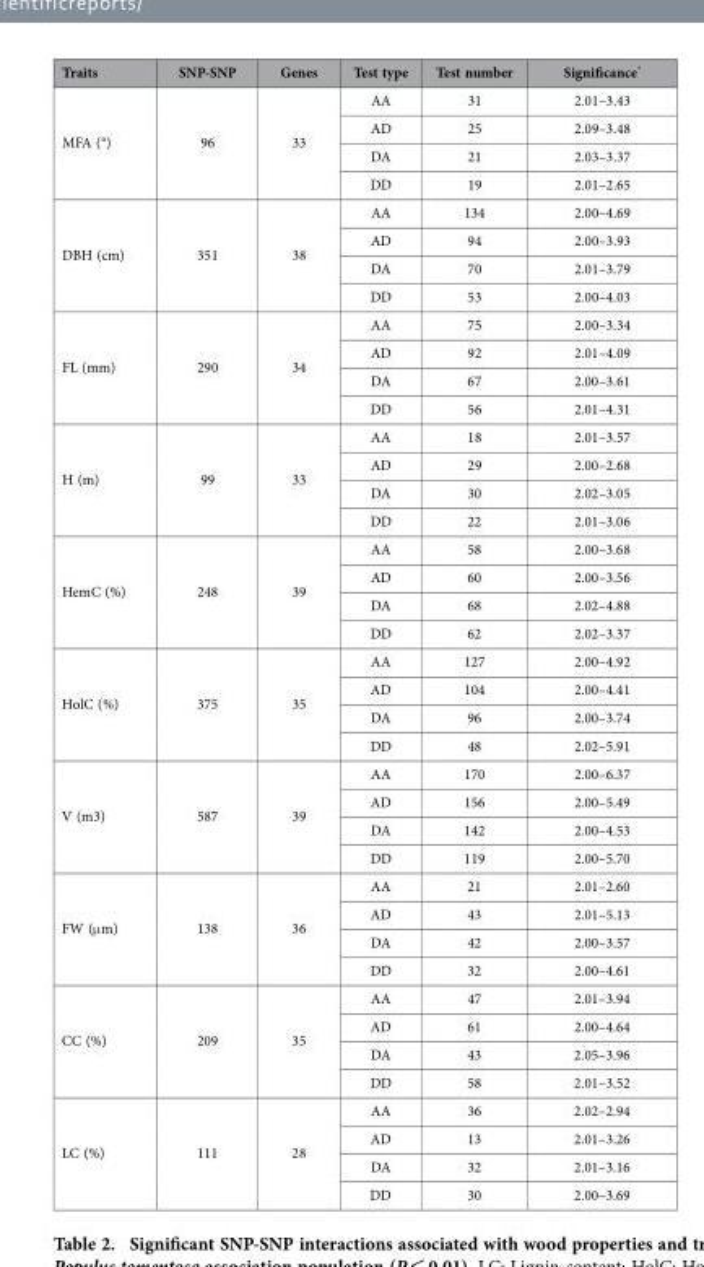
<table><thead><tr><td>Traits</td><td>SNP-SNP</td><td>Genes</td><td>Test type</td><td>Test number</td><td>Significance*</td></tr></thead><tbody><tr><td rowspan="4">MFA (°)</td><td rowspan="4">96</td><td rowspan="4">33</td><td>AA</td><td>31</td><td>2.01–3.43</td></tr><tr><td>AD</td><td>25</td><td>2.09–3.48</td></tr><tr><td>DA</td><td>21</td><td>2.03–3.37</td></tr><tr><td>DD</td><td>19</td><td>2.01–2.65</td></tr><tr><td rowspan="4">DBH (cm)</td><td rowspan="4">351</td><td rowspan="4">38</td><td>AA</td><td>134</td><td>2.00–4.69</td></tr><tr><td>AD</td><td>94</td><td>2.00–3.93</td></tr><tr><td>DA</td><td>70</td><td>2.01–3.79</td></tr><tr><td>DD</td><td>53</td><td>2.00–4.03</td></tr><tr><td rowspan="4">FL (mm)</td><td rowspan="4">290</td><td rowspan="4">34</td><td>AA</td><td>75</td><td>2.00–3.34</td></tr><tr><td>AD</td><td>92</td><td>2.01–4.09</td></tr><tr><td>DA</td><td>67</td><td>2.00–3.61</td></tr><tr><td>DD</td><td>56</td><td>2.01–4.31</td></tr><tr><td rowspan="4">H (m)</td><td rowspan="4">99</td><td rowspan="4">33</td><td>AA</td><td>18</td><td>2.01–3.57</td></tr><tr><td>AD</td><td>29</td><td>2.00–2.68</td></tr><tr><td>DA</td><td>30</td><td>2.02–3.05</td></tr><tr><td>DD</td><td>22</td><td>2.01–3.06</td></tr><tr><td rowspan="4">HemC (%)</td><td rowspan="4">248</td><td rowspan="4">39</td><td>AA</td><td>58</td><td>2.00–3.68</td></tr><tr><td>AD</td><td>60</td><td>2.00–3.56</td></tr><tr><td>DA</td><td>68</td><td>2.02–4.88</td></tr><tr><td>DD</td><td>62</td><td>2.02–3.37</td></tr><tr><td rowspan="4">HolC (%)</td><td rowspan="4">375</td><td rowspan="4">35</td><td>AA</td><td>127</td><td>2.00–4.92</td></tr><tr><td>AD</td><td>104</td><td>2.00–4.41</td></tr><tr><td>DA</td><td>96</td><td>2.00–3.74</td></tr><tr><td>DD</td><td>48</td><td>2.02–5.91</td></tr><tr><td rowspan="4">V (m3)</td><td rowspan="4">587</td><td rowspan="4">39</td><td>AA</td><td>170</td><td>2.00–6.37</td></tr><tr><td>AD</td><td>156</td><td>2.00–5.49</td></tr><tr><td>DA</td><td>142</td><td>2.00–4.53</td></tr><tr><td>DD</td><td>119</td><td>2.00–5.70</td></tr><tr><td rowspan="4">FW (μ m)</td><td rowspan="4">138</td><td rowspan="4">36</td><td>AA</td><td>21</td><td>2.01–2.60</td></tr><tr><td>AD</td><td>43</td><td>2.01–5.13</td></tr><tr><td>DA</td><td>42</td><td>2.00–3.57</td></tr><tr><td>DD</td><td>32</td><td>2.00–4.61</td></tr><tr><td rowspan="4">CC (%)</td><td rowspan="4">209</td><td rowspan="4">35</td><td>AA</td><td>47</td><td>2.01–3.94</td></tr><tr><td>AD</td><td>61</td><td>2.00–4.64</td></tr><tr><td>DA</td><td>43</td><td>2.05–3.96</td></tr><tr><td>DD</td><td>58</td><td>2.01–3.52</td></tr><tr><td rowspan="4">LC (%)</td><td rowspan="4">111</td><td rowspan="4">28</td><td>AA</td><td>36</td><td>2.02–2.94</td></tr><tr><td>AD</td><td>13</td><td>2.01–3.26</td></tr><tr><td>DA</td><td>32</td><td>2.01–3.16</td></tr><tr><td>DD</td><td>30</td><td>2.00–3.69</td></tr></tbody></table>